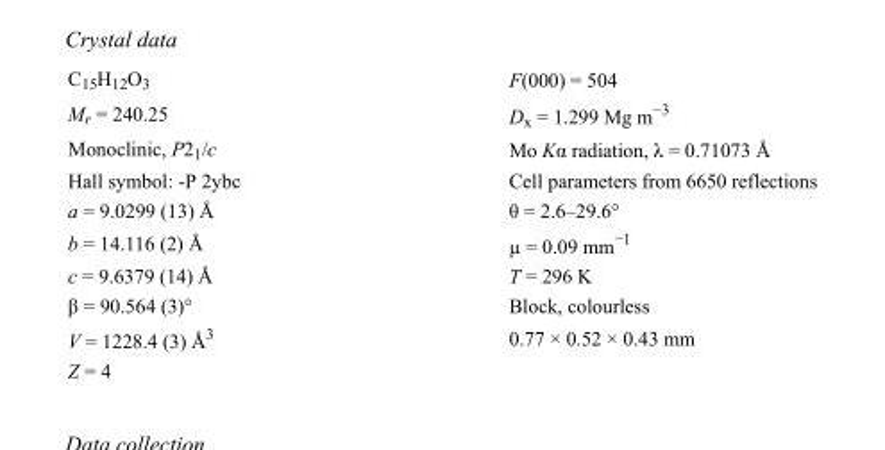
<table><tbody><tr><td>C<sub>15</sub>H<sub>12</sub>O<sub>3</sub></td><td>F(000) = 504</td></tr><tr><td>M<sub>r</sub> = 240.25</td><td>D<sub>x</sub> = 1.299 Mg m<sup>−3</sup></td></tr><tr><td>Monoclinic, P2<sub>1</sub>/c</td><td>Mo Kα radiation, λ = 0.71073 Å</td></tr><tr><td>Hall symbol: -P 2ybc</td><td>Cell parameters from 6650 reflections</td></tr><tr><td>a = 9.0299 (13) Å</td><td>θ = 2.6–29.6°</td></tr><tr><td>b = 14.116 (2) Å</td><td>µ = 0.09 mm<sup>−1</sup></td></tr><tr><td>c = 9.6379 (14) Å</td><td>T = 296 K</td></tr><tr><td>β = 90.564 (3)°</td><td>Block, colourless</td></tr><tr><td>V = 1228.4 (3) Å<sup>3</sup></td><td>0.77 × 0.52 × 0.43 mm</td></tr><tr><td>Z = 4</td><td></td></tr></tbody></table>